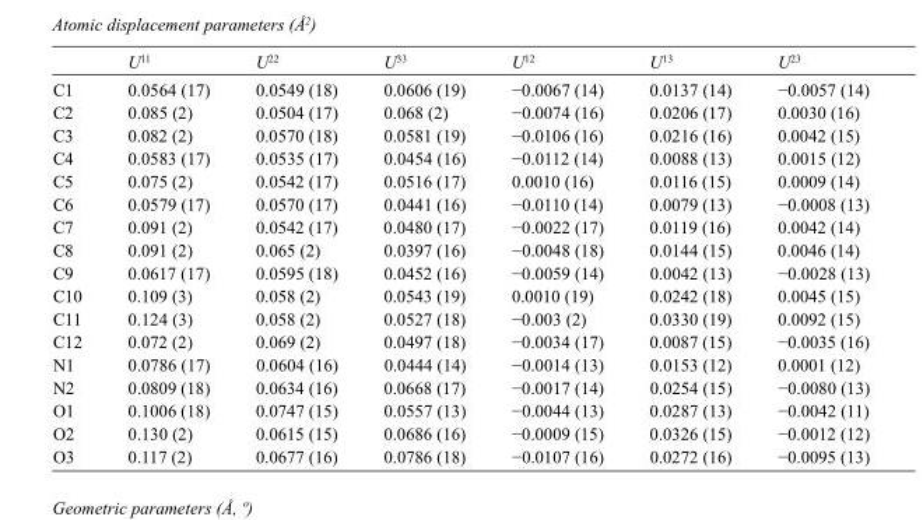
<table><thead><tr><td></td><td>U<sup>11</sup></td><td>U<sup>22</sup></td><td>U<sup>33</sup></td><td>U<sup>12</sup></td><td>U<sup>13</sup></td><td>U<sup>23</sup></td></tr></thead><tbody><tr><td>C1</td><td>0.0564 (17)</td><td>0.0549 (18)</td><td>0.0606 (19)</td><td>−0.0067 (14)</td><td>0.0137 (14)</td><td>−0.0057 (14)</td></tr><tr><td>C2</td><td>0.085 (2)</td><td>0.0504 (17)</td><td>0.068 (2)</td><td>−0.0074 (16)</td><td>0.0206 (17)</td><td>0.0030 (16)</td></tr><tr><td>C3</td><td>0.082 (2)</td><td>0.0570 (18)</td><td>0.0581 (19)</td><td>−0.0106 (16)</td><td>0.0216 (16)</td><td>0.0042 (15)</td></tr><tr><td>C4</td><td>0.0583 (17)</td><td>0.0535 (17)</td><td>0.0454 (16)</td><td>−0.0112 (14)</td><td>0.0088 (13)</td><td>0.0015 (12)</td></tr><tr><td>C5</td><td>0.075 (2)</td><td>0.0542 (17)</td><td>0.0516 (17)</td><td>0.0010 (16)</td><td>0.0116 (15)</td><td>0.0009 (14)</td></tr><tr><td>C6</td><td>0.0579 (17)</td><td>0.0570 (17)</td><td>0.0441 (16)</td><td>−0.0110 (14)</td><td>0.0079 (13)</td><td>−0.0008 (13)</td></tr><tr><td>C7</td><td>0.091 (2)</td><td>0.0542 (17)</td><td>0.0480 (17)</td><td>−0.0022 (17)</td><td>0.0119 (16)</td><td>0.0042 (14)</td></tr><tr><td>C8</td><td>0.091 (2)</td><td>0.065 (2)</td><td>0.0397 (16)</td><td>−0.0048 (18)</td><td>0.0144 (15)</td><td>0.0046 (14)</td></tr><tr><td>C9</td><td>0.0617 (17)</td><td>0.0595 (18)</td><td>0.0452 (16)</td><td>−0.0059 (14)</td><td>0.0042 (13)</td><td>−0.0028 (13)</td></tr><tr><td>C10</td><td>0.109 (3)</td><td>0.058 (2)</td><td>0.0543 (19)</td><td>0.0010 (19)</td><td>0.0242 (18)</td><td>0.0045 (15)</td></tr><tr><td>C11</td><td>0.124 (3)</td><td>0.058 (2)</td><td>0.0527 (18)</td><td>−0.003 (2)</td><td>0.0330 (19)</td><td>0.0092 (15)</td></tr><tr><td>C12</td><td>0.072 (2)</td><td>0.069 (2)</td><td>0.0497 (18)</td><td>−0.0034 (17)</td><td>0.0087 (15)</td><td>−0.0035 (16)</td></tr><tr><td>N1</td><td>0.0786 (17)</td><td>0.0604 (16)</td><td>0.0444 (14)</td><td>−0.0014 (13)</td><td>0.0153 (12)</td><td>0.0001 (12)</td></tr><tr><td>N2</td><td>0.0809 (18)</td><td>0.0634 (16)</td><td>0.0668 (17)</td><td>−0.0017 (14)</td><td>0.0254 (15)</td><td>−0.0080 (13)</td></tr><tr><td>O1</td><td>0.1006 (18)</td><td>0.0747 (15)</td><td>0.0557 (13)</td><td>−0.0044 (13)</td><td>0.0287 (13)</td><td>−0.0042 (11)</td></tr><tr><td>O2</td><td>0.130 (2)</td><td>0.0615 (15)</td><td>0.0686 (16)</td><td>−0.0009 (15)</td><td>0.0326 (15)</td><td>−0.0012 (12)</td></tr><tr><td>O3</td><td>0.117 (2)</td><td>0.0677 (16)</td><td>0.0786 (18)</td><td>−0.0107 (16)</td><td>0.0272 (16)</td><td>−0.0095 (13)</td></tr></tbody></table>